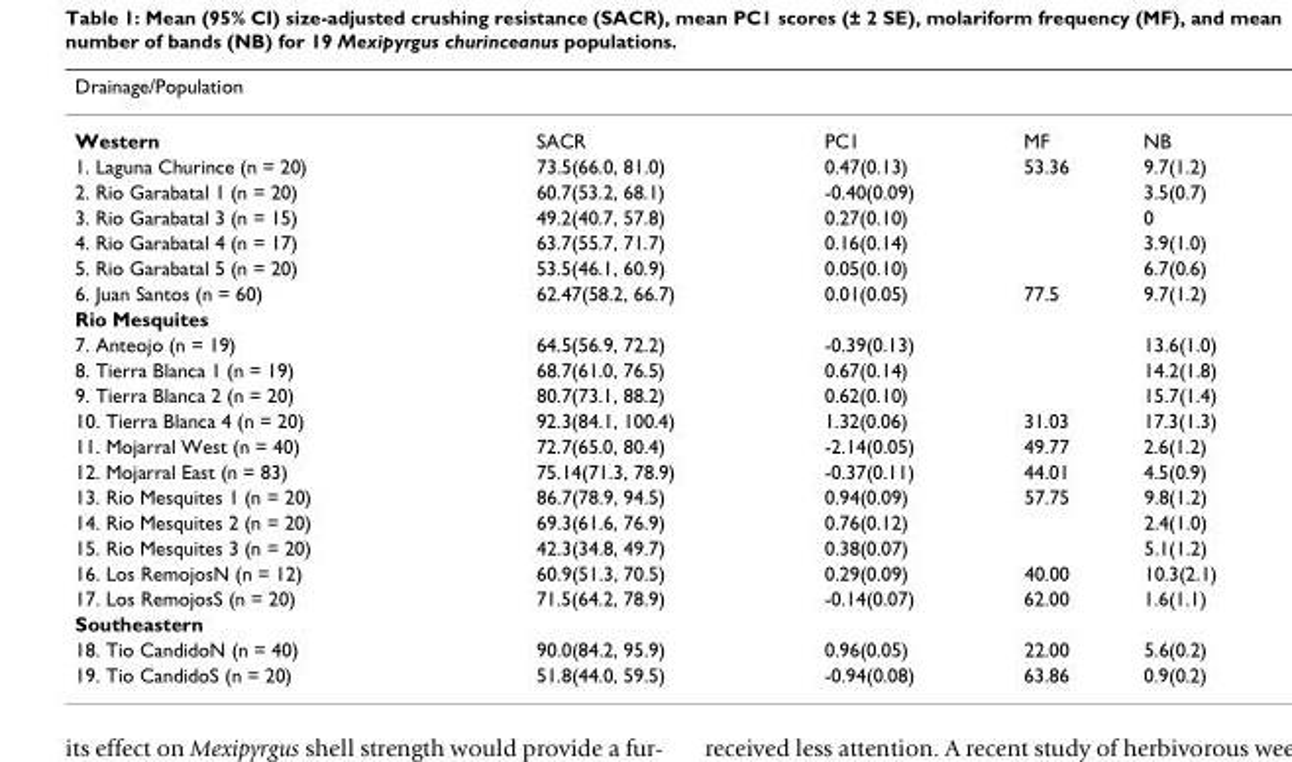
<table><thead><tr><td>Drainage/Population</td><td></td><td></td><td></td><td></td></tr></thead><tbody><tr><td>Western</td><td>SACR</td><td>PC1</td><td>MF</td><td>NB</td></tr><tr><td>1. Laguna Churince (n = 20)</td><td>73.5(66.0, 81.0)</td><td>0.47(0.13)</td><td>53.36</td><td>9.7(1.2)</td></tr><tr><td>2. Rio Garabatal 1 (n = 20)</td><td>60.7(53.2, 68.1)</td><td>-0.40(0.09)</td><td></td><td>3.5(0.7)</td></tr><tr><td>3. Rio Garabatal 3 (n = 15)</td><td>49.2(40.7, 57.8)</td><td>0.27(0.10)</td><td></td><td>0</td></tr><tr><td>4. Rio Garabatal 4 (n = 17)</td><td>63.7(55.7, 71.7)</td><td>0.16(0.14)</td><td></td><td>3.9(1.0)</td></tr><tr><td>5. Rio Garabatal 5 (n = 20)</td><td>53.5(46.1, 60.9)</td><td>0.05(0.10)</td><td></td><td>6.7(0.6)</td></tr><tr><td>6. Juan Santos (n = 60)</td><td>62.47(58.2, 66.7)</td><td>0.01(0.05)</td><td>77.5</td><td>9.7(1.2)</td></tr><tr><td colspan="5">Rio Mesquites</td></tr><tr><td>7. Anteojo (n = 19)</td><td>64.5(56.9, 72.2)</td><td>-0.39(0.13)</td><td></td><td>13.6(1.0)</td></tr><tr><td>8. Tierra Blanca 1 (n = 19)</td><td>68.7(61.0, 76.5)</td><td>0.67(0.14)</td><td></td><td>14.2(1.8)</td></tr><tr><td>9. Tierra Blanca 2 (n = 20)</td><td>80.7(73.1, 88.2)</td><td>0.62(0.10)</td><td></td><td>15.7(1.4)</td></tr><tr><td>10. Tierra Blanca 4 (n = 20)</td><td>92.3(84.1, 100.4)</td><td>1.32(0.06)</td><td>31.03</td><td>17.3(1.3)</td></tr><tr><td>11. Mojarral West (n = 40)</td><td>72.7(65.0, 80.4)</td><td>-2.14(0.05)</td><td>49.77</td><td>2.6(1.2)</td></tr><tr><td>12. Mojarral East (n = 83)</td><td>75.14(71.3, 78.9)</td><td>-0.37(0.11)</td><td>44.01</td><td>4.5(0.9)</td></tr><tr><td>13. Rio Mesquites 1 (n = 20)</td><td>86.7(78.9, 94.5)</td><td>0.94(0.09)</td><td>57.75</td><td>9.8(1.2)</td></tr><tr><td>14. Rio Mesquites 2 (n = 20)</td><td>69.3(61.6, 76.9)</td><td>0.76(0.12)</td><td></td><td>2.4(1.0)</td></tr><tr><td>15. Rio Mesquites 3 (n = 20)</td><td>42.3(34.8, 49.7)</td><td>0.38(0.07)</td><td></td><td>5.1(1.2)</td></tr><tr><td>16. Los RemojosN (n = 12)</td><td>60.9(51.3, 70.5)</td><td>0.29(0.09)</td><td>40.00</td><td>10.3(2.1)</td></tr><tr><td>17. Los RemojosS (n = 20)</td><td>71.5(64.2, 78.9)</td><td>-0.14(0.07)</td><td>62.00</td><td>1.6(1.1)</td></tr><tr><td colspan="5">Southeastern</td></tr><tr><td>18. Tio CandidoN (n = 40)</td><td>90.0(84.2, 95.9)</td><td>0.96(0.05)</td><td>22.00</td><td>5.6(0.2)</td></tr><tr><td>19. Tio CandidoS (n = 20)</td><td>51.8(44.0, 59.5)</td><td>-0.94(0.08)</td><td>63.86</td><td>0.9(0.2)</td></tr></tbody></table>